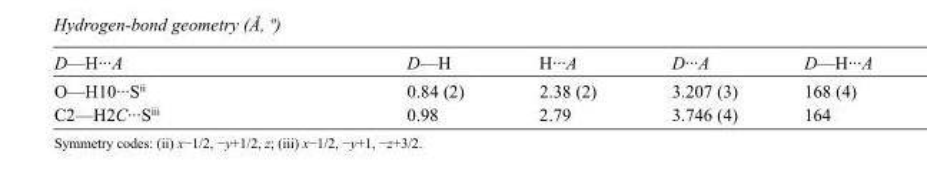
<table><tbody><tr><td>D—H···A</td><td>D—H</td><td>H···A</td><td>D···A</td><td>D—H···A</td></tr><tr><td>O—H10···S<sup>ii</sup></td><td>0.84 (2)</td><td>2.38 (2)</td><td>3.207 (3)</td><td>168 (4)</td></tr><tr><td>C2—H2C···S<sup>iii</sup></td><td>0.98</td><td>2.79</td><td>3.746 (4)</td><td>164</td></tr></tbody></table>